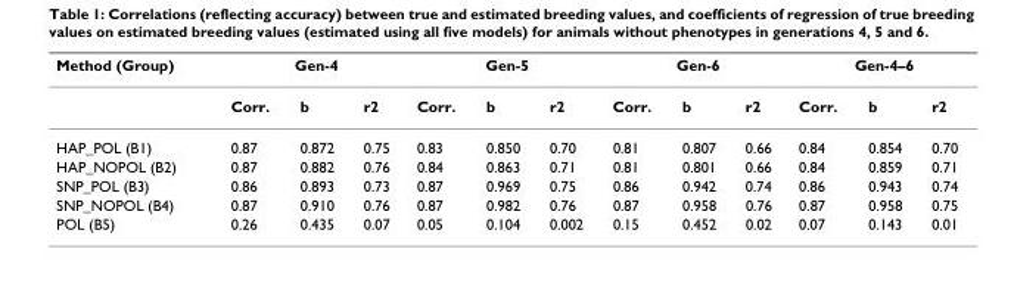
<table><thead><tr><td rowspan="2">Method (Group)</td><td colspan="3">Gen-4</td><td colspan="3">Gen-5</td><td colspan="3">Gen-6</td><td colspan="3">Gen-4–6</td></tr><tr><td>Corr.</td><td>b</td><td>r2</td><td>Corr.</td><td>b</td><td>r2</td><td>Corr.</td><td>b</td><td>r2</td><td>Corr.</td><td>b</td><td>r2</td></tr></thead><tbody><tr><td>HAP_POL (B1)</td><td>0.87</td><td>0.872</td><td>0.75</td><td>0.83</td><td>0.850</td><td>0.70</td><td>0.81</td><td>0.807</td><td>0.66</td><td>0.84</td><td>0.854</td><td>0.70</td></tr><tr><td>HAP_NOPOL (B2)</td><td>0.87</td><td>0.882</td><td>0.76</td><td>0.84</td><td>0.863</td><td>0.71</td><td>0.81</td><td>0.801</td><td>0.66</td><td>0.84</td><td>0.859</td><td>0.71</td></tr><tr><td>SNP_POL (B3)</td><td>0.86</td><td>0.893</td><td>0.73</td><td>0.87</td><td>0.969</td><td>0.75</td><td>0.86</td><td>0.942</td><td>0.74</td><td>0.86</td><td>0.943</td><td>0.74</td></tr><tr><td>SNP_NOPOL (B4)</td><td>0.87</td><td>0.910</td><td>0.76</td><td>0.87</td><td>0.982</td><td>0.76</td><td>0.87</td><td>0.958</td><td>0.76</td><td>0.87</td><td>0.958</td><td>0.75</td></tr><tr><td>POL (B5)</td><td>0.26</td><td>0.435</td><td>0.07</td><td>0.05</td><td>0.104</td><td>0.002</td><td>0.15</td><td>0.452</td><td>0.02</td><td>0.07</td><td>0.143</td><td>0.01</td></tr></tbody></table>